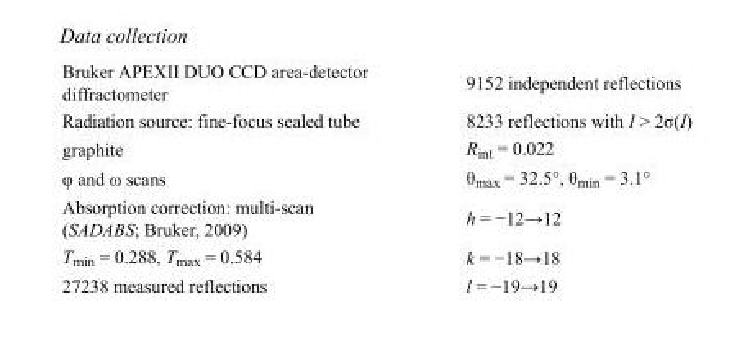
<table><tbody><tr><td>Bruker APEXII DUO CCD area-detector diffractometer</td><td>9152 independent reflections</td></tr><tr><td>Radiation source: fine-focus sealed tube</td><td>8233 reflections with I &gt; 2σ(I)</td></tr><tr><td>graphite</td><td>R<sub>int</sub> = 0.022</td></tr><tr><td>φ and ω scans</td><td>θ<sub>max</sub> = 32.5°, θ<sub>min</sub> = 3.1°</td></tr><tr><td>Absorption correction: multi-scan (SADABS; Bruker, 2009)</td><td>h = −12→12</td></tr><tr><td>T<sub>min</sub> = 0.288, T<sub>max</sub> = 0.584</td><td>k = −18→18</td></tr><tr><td>27238 measured reflections</td><td>l = −19→19</td></tr></tbody></table>